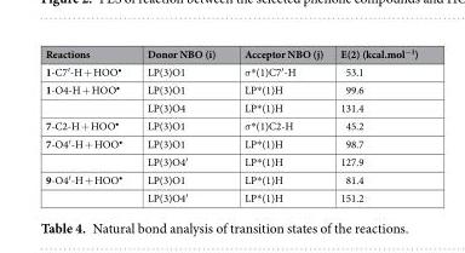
<table><thead><tr><td>Reactions</td><td>Donor NBO (i)</td><td>Acceptor NBO (j)</td><td>E(2) (kcal.mol<sup>−1</sup>)</td></tr></thead><tbody><tr><td>1-C7′-H + HOO<sup>•</sup></td><td>LP(3)O1</td><td>σ*(1)C7′-H</td><td>53.1</td></tr><tr><td rowspan="2">1-O4-H + HOO<sup>•</sup></td><td>LP(3)O1</td><td>LP*(1)H</td><td>99.6</td></tr><tr><td>LP(3)O4</td><td>LP*(1)H</td><td>131.4</td></tr><tr><td>7-C2-H + HOO<sup>•</sup></td><td>LP(3)O1</td><td>σ*(1)C2-H</td><td>45.2</td></tr><tr><td rowspan="2">7-O4′-H + HOO<sup>•</sup></td><td>LP(3)O1</td><td>LP*(1)H</td><td>98.7</td></tr><tr><td>LP(3)O4′</td><td>LP*(1)H</td><td>127.9</td></tr><tr><td rowspan="2">9-O4′-H + HOO<sup>•</sup></td><td>LP(3)O1</td><td>LP*(1)H</td><td>81.4</td></tr><tr><td>LP(3)O4′</td><td>LP*(1)H</td><td>151.2</td></tr></tbody></table>